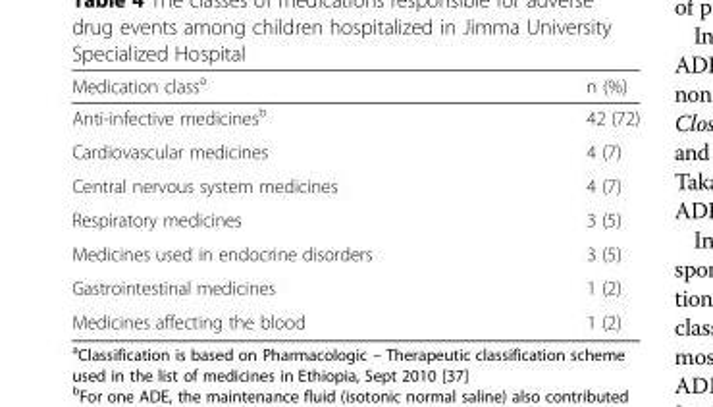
<table><thead><tr><td>Medication class<sup>a</sup></td><td>n (%)</td></tr></thead><tbody><tr><td>Anti-infective medicines<sup>b</sup></td><td>42 (72)</td></tr><tr><td>Cardiovascular medicines</td><td>4 (7)</td></tr><tr><td>Central nervous system medicines</td><td>4 (7)</td></tr><tr><td>Respiratory medicines</td><td>3 (5)</td></tr><tr><td>Medicines used in endocrine disorders</td><td>3 (5)</td></tr><tr><td>Gastrointestinal medicines</td><td>1 (2)</td></tr><tr><td>Medicines affecting the blood</td><td>1 (2)</td></tr></tbody></table>